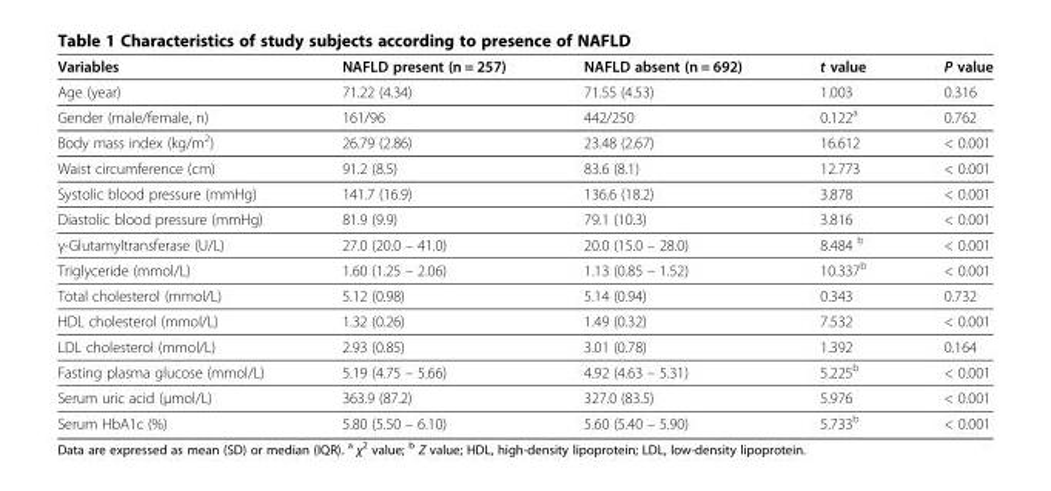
<table><thead><tr><td>Variables</td><td>NAFLD present (n = 257)</td><td>NAFLD absent (n = 692)</td><td>t value</td><td>P value</td></tr></thead><tbody><tr><td>Age (year)</td><td>71.22 (4.34)</td><td>71.55 (4.53)</td><td>1.003</td><td>0.316</td></tr><tr><td>Gender (male/female, n)</td><td>161/96</td><td>442/250</td><td>0.122<sup>a</sup></td><td>0.762</td></tr><tr><td>Body mass index (kg/m<sup>2</sup>)</td><td>26.79 (2.86)</td><td>23.48 (2.67)</td><td>16.612</td><td>&lt; 0.001</td></tr><tr><td>Waist circumference (cm)</td><td>91.2 (8.5)</td><td>83.6 (8.1)</td><td>12.773</td><td>&lt; 0.001</td></tr><tr><td>Systolic blood pressure (mmHg)</td><td>141.7 (16.9)</td><td>136.6 (18.2)</td><td>3.878</td><td>&lt; 0.001</td></tr><tr><td>Diastolic blood pressure (mmHg)</td><td>81.9 (9.9)</td><td>79.1 (10.3)</td><td>3.816</td><td>&lt; 0.001</td></tr><tr><td>γ-Glutamyltransferase (U/L)</td><td>27.0 (20.0 – 41.0)</td><td>20.0 (15.0 – 28.0)</td><td>8.484 <sup>b</sup></td><td>&lt; 0.001</td></tr><tr><td>Triglyceride (mmol/L)</td><td>1.60 (1.25 – 2.06)</td><td>1.13 (0.85 – 1.52)</td><td>10.337<sup>b</sup></td><td>&lt; 0.001</td></tr><tr><td>Total cholesterol (mmol/L)</td><td>5.12 (0.98)</td><td>5.14 (0.94)</td><td>0.343</td><td>0.732</td></tr><tr><td>HDL cholesterol (mmol/L)</td><td>1.32 (0.26)</td><td>1.49 (0.32)</td><td>7.532</td><td>&lt; 0.001</td></tr><tr><td>LDL cholesterol (mmol/L)</td><td>2.93 (0.85)</td><td>3.01 (0.78)</td><td>1.392</td><td>0.164</td></tr><tr><td>Fasting plasma glucose (mmol/L)</td><td>5.19 (4.75 – 5.66)</td><td>4.92 (4.63 – 5.31)</td><td>5.225<sup>b</sup></td><td>&lt; 0.001</td></tr><tr><td>Serum uric acid (μmol/L)</td><td>363.9 (87.2)</td><td>327.0 (83.5)</td><td>5.976</td><td>&lt; 0.001</td></tr><tr><td>Serum HbA1c (%)</td><td>5.80 (5.50 – 6.10)</td><td>5.60 (5.40 – 5.90)</td><td>5.733<sup>b</sup></td><td>&lt; 0.001</td></tr></tbody></table>